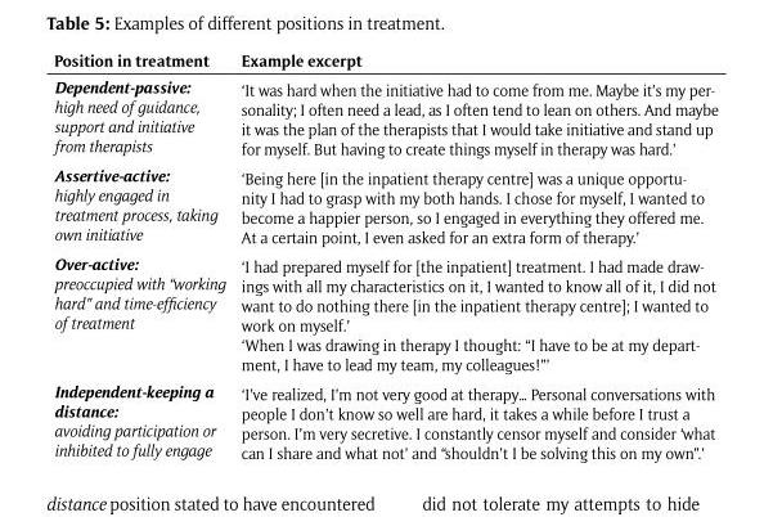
<table><thead><tr><td>Position in treatment</td><td>Example excerpt</td></tr></thead><tbody><tr><td>Dependent-passive: high need of guidance, support and initiative from therapists</td><td>‘It was hard when the initiative had to come from me. Maybe it’s my per- sonality; I often need a lead, as I often tend to lean on others. And maybe it was the plan of the therapists that I would take initiative and stand up for myself. But having to create things myself in therapy was hard.’</td></tr><tr><td>Assertive-active: highly engaged in treatment process, taking own initiative</td><td>‘Being here [in the inpatient therapy centre] was a unique opportu- nity I had to grasp with my both hands. I chose for myself, I wanted to become a happier person, so I engaged in everything they offered me. At a certain point, I even asked for an extra form of therapy.’</td></tr><tr><td>Over-active: preoccupied with “working hard” and time-efficiency of treatment</td><td>‘I had prepared myself for [the inpatient] treatment. I had made draw- ings with all my characteristics on it, I wanted to know all of it, I did not want to do nothing there [in the inpatient therapy centre]; I wanted to work on myself.’ ‘When I was drawing in therapy I thought: “I have to be at my depart- ment, I have to lead my team, my colleagues!”’</td></tr><tr><td>Independent-keeping a distance: avoiding participation or inhibited to fully engage</td><td>‘I’ve realized, I’m not very good at therapy… Personal conversations with people I don’t know so well are hard, it takes a while before I trust a person. I’m very secretive. I constantly censor myself and consider ‘what can I share and what not’ and “shouldn’t I be solving this on my own”.’</td></tr></tbody></table>